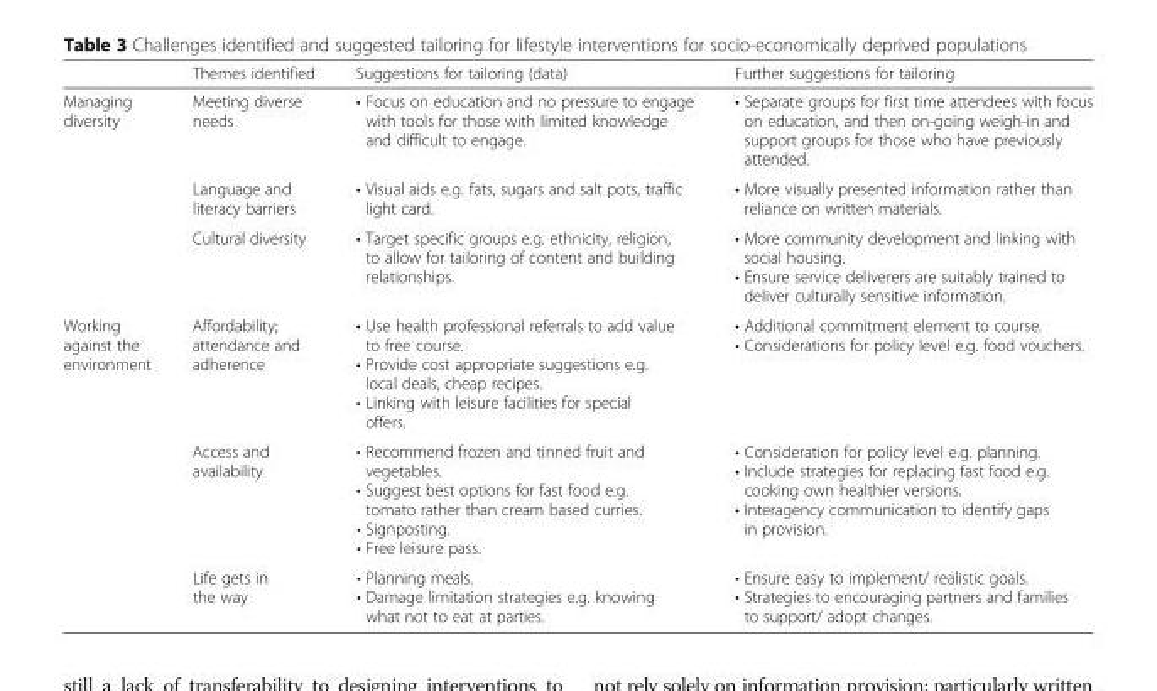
<table><thead><tr><td></td><td>Themes identified</td><td>Suggestions for tailoring (data)</td><td>Further suggestions for tailoring</td></tr></thead><tbody><tr><td rowspan="3">Managing diversity</td><td>Meeting diverse needs</td><td>• Focus on education and no pressure to engage with tools for those with limited knowledge and difficult to engage.</td><td>• Separate groups for first time attendees with focus on education, and then on-going weigh-in and support groups for those who have previously attended.</td></tr><tr><td>Language and literacy barriers</td><td>• Visual aids e.g. fats, sugars and salt pots, traffic light card.</td><td>• More visually presented information rather than reliance on written materials.</td></tr><tr><td>Cultural diversity</td><td>• Target specific groups e.g. ethnicity, religion, to allow for tailoring of content and building relationships.</td><td>• More community development and linking with social housing. • Ensure service deliverers are suitably trained to deliver culturally sensitive information.</td></tr><tr><td rowspan="3">Working against the environment</td><td>Affordability; attendance and adherence</td><td>• Use health professional referrals to add value to free course. • Provide cost appropriate suggestions e.g. local deals, cheap recipes. • Linking with leisure facilities for special offers.</td><td>• Additional commitment element to course. • Considerations for policy level e.g. food vouchers.</td></tr><tr><td>Access and availability</td><td>• Recommend frozen and tinned fruit and vegetables. • Suggest best options for fast food e.g. tomato rather than cream based curries. • Signposting. • Free leisure pass.</td><td>• Consideration for policy level e.g. planning. • Include strategies for replacing fast food e.g. cooking own healthier versions. • Interagency communication to identify gaps in provision.</td></tr><tr><td>Life gets in the way</td><td>• Planning meals. • Damage limitation strategies e.g. knowing what not to eat at parties.</td><td>• Ensure easy to implement/ realistic goals. • Strategies to encouraging partners and families to support/ adopt changes.</td></tr></tbody></table>